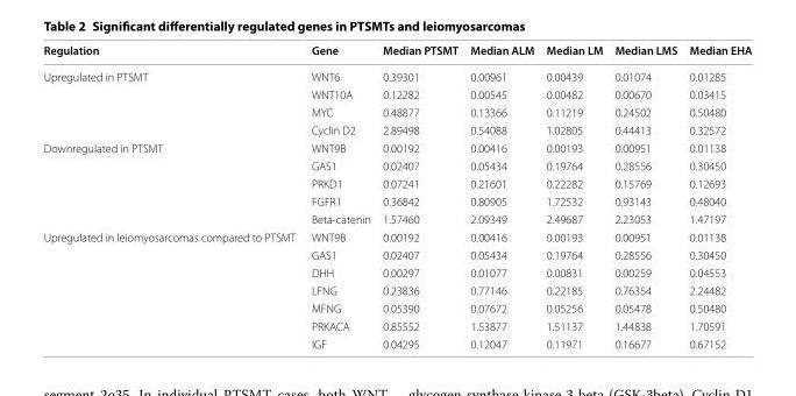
<table><thead><tr><td>Regulation</td><td>Gene</td><td>Median PTSMT</td><td>Median ALM</td><td>Median LM</td><td>Median LMS</td><td>Median EHA</td></tr></thead><tbody><tr><td rowspan="4">Upregulated in PTSMT</td><td>WNT6</td><td>0.39301</td><td>0.00961</td><td>0.00439</td><td>0.01074</td><td>0.01285</td></tr><tr><td>WNT10A</td><td>0.12282</td><td>0.00545</td><td>0.00482</td><td>0.00670</td><td>0.03415</td></tr><tr><td>MYC</td><td>0.48877</td><td>0.13366</td><td>0.11219</td><td>0.24502</td><td>0.50480</td></tr><tr><td>Cyclin D2</td><td>2.89498</td><td>0.54088</td><td>1.02805</td><td>0.44413</td><td>0.32572</td></tr><tr><td rowspan="5">Downregulated in PTSMT</td><td>WNT9B</td><td>0.00192</td><td>0.00416</td><td>0.00193</td><td>0.00951</td><td>0.01138</td></tr><tr><td>GAS1</td><td>0.02407</td><td>0.05434</td><td>0.19764</td><td>0.28556</td><td>0.30450</td></tr><tr><td>PRKD1</td><td>0.07241</td><td>0.21601</td><td>0.22282</td><td>0.15769</td><td>0.12693</td></tr><tr><td>FGFR1</td><td>0.36842</td><td>0.80905</td><td>1.72532</td><td>0.93143</td><td>0.48040</td></tr><tr><td>Beta-catenin</td><td>1.57460</td><td>2.09349</td><td>2.49687</td><td>2.23053</td><td>1.47197</td></tr><tr><td rowspan="7">Upregulated in leiomyosarcomas compared to PTSMT</td><td>WNT9B</td><td>0.00192</td><td>0.00416</td><td>0.00193</td><td>0.00951</td><td>0.01138</td></tr><tr><td>GAS1</td><td>0.02407</td><td>0.05434</td><td>0.19764</td><td>0.28556</td><td>0.30450</td></tr><tr><td>DHH</td><td>0.00297</td><td>0.01077</td><td>0.00831</td><td>0.00259</td><td>0.04553</td></tr><tr><td>LFNG</td><td>0.23836</td><td>0.77146</td><td>0.22185</td><td>0.76354</td><td>2.24482</td></tr><tr><td>MFNG</td><td>0.05390</td><td>0.07672</td><td>0.05256</td><td>0.05478</td><td>0.50480</td></tr><tr><td>PRKACA</td><td>0.85552</td><td>1.53877</td><td>1.51137</td><td>1.44838</td><td>1.70591</td></tr><tr><td>IGF</td><td>0.04295</td><td>0.12047</td><td>0.11971</td><td>0.16677</td><td>0.67152</td></tr></tbody></table>